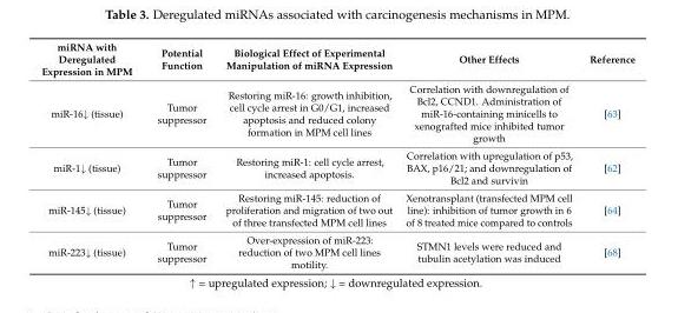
<table><thead><tr><td>miRNA with Deregulated Expression in MPM</td><td>Potential Function</td><td>Biological Effect of Experimental Manipulation of miRNA Expression</td><td>Other Effects</td><td>Reference</td></tr></thead><tbody><tr><td>miR-16↓ (tissue)</td><td>Tumor suppressor</td><td>Restoring miR-16: growth inhibition, cell cycle arrest in G0/G1, increased apoptosis and reduced colony formation in MPM cell lines</td><td>Correlation with downregulation of Bcl2, CCND1. Administration of miR-16-containing minicells to xenografted mice inhibited tumor growth</td><td>[63]</td></tr><tr><td>miR-1↓ (tissue)</td><td>Tumor suppressor</td><td>Restoring miR-1: cell cycle arrest, increased apoptosis.</td><td>Correlation with upregulation of p53, BAX, p16/21; and downregulation of Bcl2 and survivin</td><td>[62]</td></tr><tr><td>miR-145↓ (tissue)</td><td>Tumor suppressor</td><td>Restoring miR-145: reduction of proliferation and migration of two out of three transfected MPM cell lines</td><td>Xenotransplant (transfected MPM cell line): inhibition of tumor growth in 6 of 8 treated mice compared to controls</td><td>[64]</td></tr><tr><td>miR-223↓ (tissue)</td><td>Tumor suppressor</td><td>Over-expression of miR-223: reduction of two MPM cell lines motility.</td><td>STMN1 levels were reduced and tubulin acetylation was induced</td><td>[68]</td></tr></tbody></table>